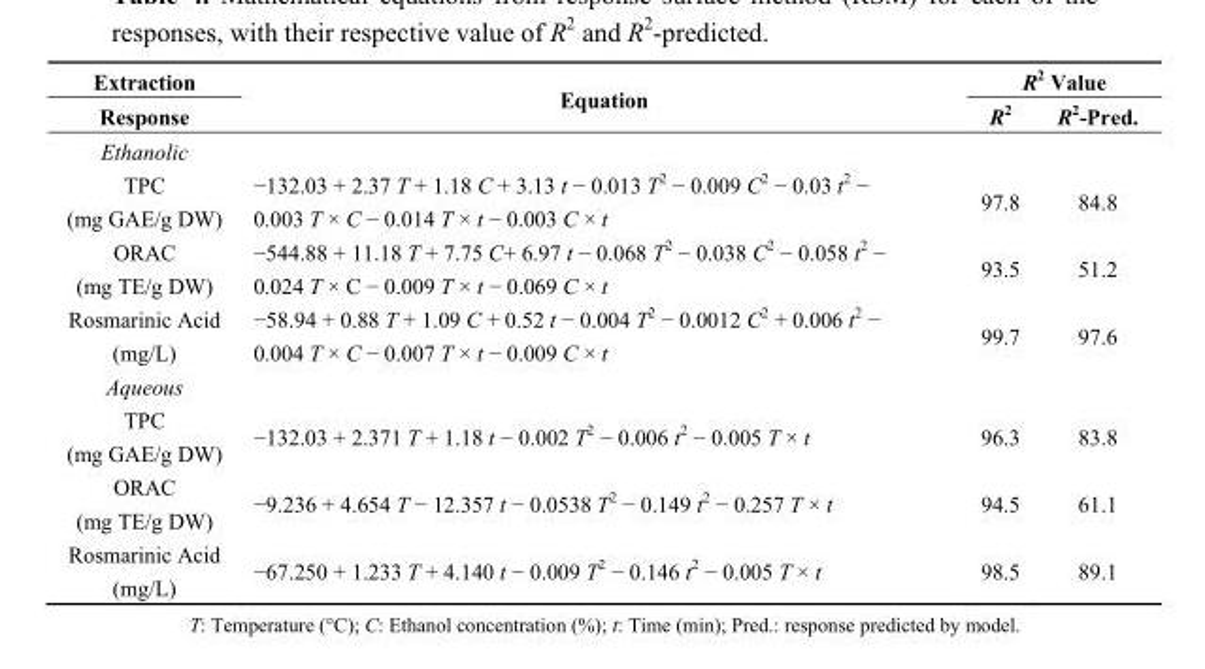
<table><thead><tr><td rowspan="2">Extraction Response</td><td rowspan="2">Equation</td><td colspan="2">R<sup>2</sup> Value</td></tr><tr><td>R<sup>2</sup></td><td>R<sup>2</sup>-Pred.</td></tr></thead><tbody><tr><td colspan="4">Ethanolic</td></tr><tr><td>TPC (mg GAE/g DW)</td><td>−132.03 + 2.37 T + 1.18 C + 3.13 t − 0.013 T<sup>2</sup> − 0.009 C<sup>2</sup> − 0.03 t<sup>2</sup> − 0.003 T × C − 0.014 T × t − 0.003 C × t</td><td>97.8</td><td>84.8</td></tr><tr><td>ORAC (mg TE/g DW)</td><td>−544.88 + 11.18 T + 7.75 C+ 6.97 t − 0.068 T<sup>2</sup> − 0.038 C<sup>2</sup> − 0.058 t<sup>2</sup> − 0.024 T × C − 0.009 T × t − 0.069 C × t</td><td>93.5</td><td>51.2</td></tr><tr><td>Rosmarinic Acid (mg/L)</td><td>−58.94 + 0.88 T + 1.09 C + 0.52 t − 0.004 T<sup>2</sup> − 0.0012 C<sup>2</sup> + 0.006 t<sup>2</sup> − 0.004 T × C − 0.007 T × t − 0.009 C × t</td><td>99.7</td><td>97.6</td></tr><tr><td colspan="4">Aqueous</td></tr><tr><td>TPC (mg GAE/g DW)</td><td>−132.03 + 2.371 T + 1.18 t − 0.002 T<sup>2</sup> − 0.006 t<sup>2</sup> − 0.005 T × t</td><td>96.3</td><td>83.8</td></tr><tr><td>ORAC (mg TE/g DW)</td><td>−9.236 + 4.654 T − 12.357 t − 0.0538 T<sup>2</sup> − 0.149 t<sup>2</sup> − 0.257 T × t</td><td>94.5</td><td>61.1</td></tr><tr><td>Rosmarinic Acid (mg/L)</td><td>−67.250 + 1.233 T + 4.140 t − 0.009 T<sup>2</sup> − 0.146 t<sup>2</sup> − 0.005 T × t</td><td>98.5</td><td>89.1</td></tr></tbody></table>